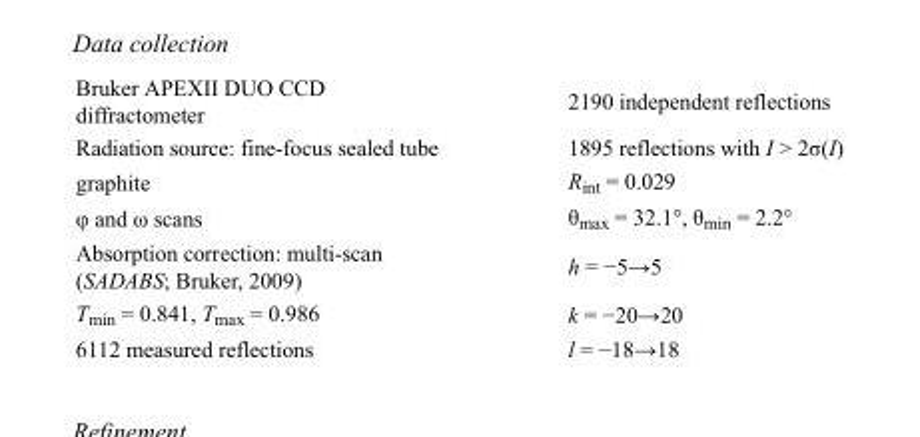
<table><tbody><tr><td>Bruker APEXII DUO CCD diffractometer</td><td>2190 independent reflections</td></tr><tr><td>Radiation source: fine-focus sealed tube</td><td>1895 reflections with I &gt; 2σ(I)</td></tr><tr><td>graphite</td><td>R<sub>int</sub> = 0.029</td></tr><tr><td>φ and ω scans</td><td>θ<sub>max</sub> = 32.1°, θ<sub>min</sub> = 2.2°</td></tr><tr><td>Absorption correction: multi-scan (SADABS; Bruker, 2009)</td><td>h = −5→5</td></tr><tr><td>T<sub>min</sub> = 0.841, T<sub>max</sub> = 0.986</td><td>k = −20→20</td></tr><tr><td>6112 measured reflections</td><td>l = −18→18</td></tr></tbody></table>